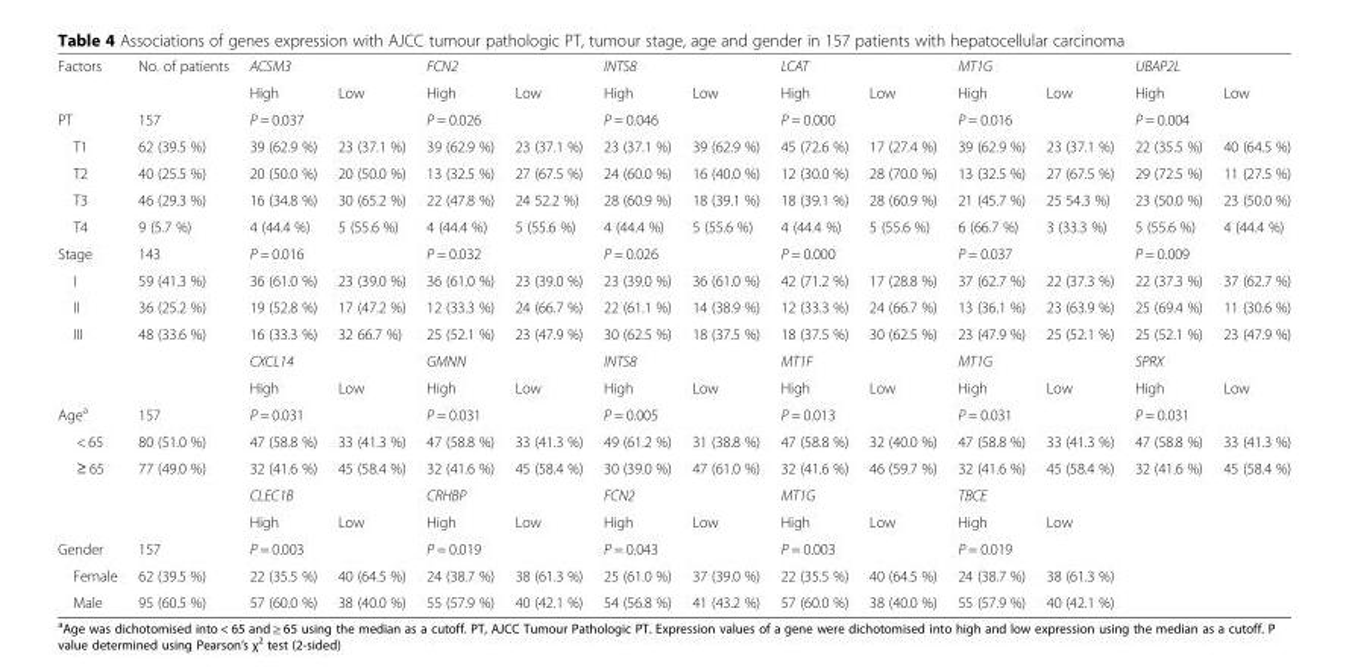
<table><tbody><tr><td rowspan="2">Factors</td><td rowspan="2">No. of patients</td><td colspan="2">ACSM3</td><td colspan="2">FCN2</td><td colspan="2">INTS8</td><td colspan="2">LCAT</td><td colspan="2">MT1G</td><td colspan="2">UBAP2L</td></tr><tr><td>High</td><td>Low</td><td>High</td><td>Low</td><td>High</td><td>Low</td><td>High</td><td>Low</td><td>High</td><td>Low</td><td>High</td><td>Low</td></tr><tr><td>PT</td><td>157</td><td colspan="2">P = 0.037</td><td colspan="2">P = 0.026</td><td colspan="2">P = 0.046</td><td colspan="2">P = 0.000</td><td colspan="2">P = 0.016</td><td colspan="2">P = 0.004</td></tr><tr><td>T1</td><td>62 (39.5 %)</td><td>39 (62.9 %)</td><td>23 (37.1 %)</td><td>39 (62.9 %)</td><td>23 (37.1 %)</td><td>23 (37.1 %)</td><td>39 (62.9 %)</td><td>45 (72.6 %)</td><td>17 (27.4 %)</td><td>39 (62.9 %)</td><td>23 (37.1 %)</td><td>22 (35.5 %)</td><td>40 (64.5 %)</td></tr><tr><td>T2</td><td>40 (25.5 %)</td><td>20 (50.0 %)</td><td>20 (50.0 %)</td><td>13 (32.5 %)</td><td>27 (67.5 %)</td><td>24 (60.0 %)</td><td>16 (40.0 %)</td><td>12 (30.0 %)</td><td>28 (70.0 %)</td><td>13 (32.5 %)</td><td>27 (67.5 %)</td><td>29 (72.5 %)</td><td>11 (27.5 %)</td></tr><tr><td>T3</td><td>46 (29.3 %)</td><td>16 (34.8 %)</td><td>30 (65.2 %)</td><td>22 (47.8 %)</td><td>24 52.2 %)</td><td>28 (60.9 %)</td><td>18 (39.1 %)</td><td>18 (39.1 %)</td><td>28 (60.9 %)</td><td>21 (45.7 %)</td><td>25 54.3 %)</td><td>23 (50.0 %)</td><td>23 (50.0 %)</td></tr><tr><td>T4</td><td>9 (5.7 %)</td><td>4 (44.4 %)</td><td>5 (55.6 %)</td><td>4 (44.4 %)</td><td>5 (55.6 %)</td><td>4 (44.4 %)</td><td>5 (55.6 %)</td><td>4 (44.4 %)</td><td>5 (55.6 %)</td><td>6 (66.7 %)</td><td>3 (33.3 %)</td><td>5 (55.6 %)</td><td>4 (44.4 %)</td></tr><tr><td>Stage</td><td>143</td><td colspan="2">P = 0.016</td><td colspan="2">P = 0.032</td><td colspan="2">P = 0.026</td><td colspan="2">P = 0.000</td><td colspan="2">P = 0.037</td><td colspan="2">P = 0.009</td></tr><tr><td>I</td><td>59 (41.3 %)</td><td>36 (61.0 %)</td><td>23 (39.0 %)</td><td>36 (61.0 %)</td><td>23 (39.0 %)</td><td>23 (39.0 %)</td><td>36 (61.0 %)</td><td>42 (71.2 %)</td><td>17 (28.8 %)</td><td>37 (62.7 %)</td><td>22 (37.3 %)</td><td>22 (37.3 %)</td><td>37 (62.7 %)</td></tr><tr><td>II</td><td>36 (25.2 %)</td><td>19 (52.8 %)</td><td>17 (47.2 %)</td><td>12 (33.3 %)</td><td>24 (66.7 %)</td><td>22 (61.1 %)</td><td>14 (38.9 %)</td><td>12 (33.3 %)</td><td>24 (66.7 %)</td><td>13 (36.1 %)</td><td>23 (63.9 %)</td><td>25 (69.4 %)</td><td>11 (30.6 %)</td></tr><tr><td rowspan="3">III</td><td>48 (33.6 %)</td><td>16 (33.3 %)</td><td>32 66.7 %)</td><td>25 (52.1 %)</td><td>23 (47.9 %)</td><td>30 (62.5 %)</td><td>18 (37.5 %)</td><td>18 (37.5 %)</td><td>30 (62.5 %)</td><td>23 (47.9 %)</td><td>25 (52.1 %)</td><td>25 (52.1 %)</td><td>23 (47.9 %)</td></tr><tr><td></td><td colspan="2">CXCL14</td><td colspan="2">GMNN</td><td colspan="2">INTS8</td><td colspan="2">MT1F</td><td colspan="2">MT1G</td><td colspan="2">SPRX</td></tr><tr><td></td><td>High</td><td>Low</td><td>High</td><td>Low</td><td>High</td><td>Low</td><td>High</td><td>Low</td><td>High</td><td>Low</td><td>High</td><td>Low</td></tr><tr><td>Age<sup>a</sup></td><td>157</td><td colspan="2">P = 0.031</td><td colspan="2">P = 0.031</td><td colspan="2">P = 0.005</td><td colspan="2">P = 0.013</td><td colspan="2">P = 0.031</td><td colspan="2">P = 0.031</td></tr><tr><td>&lt; 65</td><td>80 (51.0 %)</td><td>47 (58.8 %)</td><td>33 (41.3 %)</td><td>47 (58.8 %)</td><td>33 (41.3 %)</td><td>49 (61.2 %)</td><td>31 (38.8 %)</td><td>47 (58.8 %)</td><td>32 (40.0 %)</td><td>47 (58.8 %)</td><td>33 (41.3 %)</td><td>47 (58.8 %)</td><td>33 (41.3 %)</td></tr><tr><td>≥ 65</td><td>77 (49.0 %)</td><td>32 (41.6 %)</td><td>45 (58.4 %)</td><td>32 (41.6 %)</td><td>45 (58.4 %)</td><td>30 (39.0 %)</td><td>47 (61.0 %)</td><td>32 (41.6 %)</td><td>46 (59.7 %)</td><td>32 (41.6 %)</td><td>45 (58.4 %)</td><td>32 (41.6 %)</td><td>45 (58.4 %)</td></tr><tr><td rowspan="2" colspan="2"></td><td colspan="2">CLEC1B</td><td colspan="2">CRHBP</td><td colspan="2">FCN2</td><td colspan="2">MT1G</td><td colspan="2">TBCE</td><td rowspan="4" colspan="2"></td></tr><tr><td>High</td><td>Low</td><td>High</td><td>Low</td><td>High</td><td>Low</td><td>High</td><td>Low</td><td>High</td><td>Low</td></tr><tr><td>Gender</td><td>157</td><td colspan="2">P = 0.003</td><td colspan="2">P = 0.019</td><td colspan="2">P = 0.043</td><td colspan="2">P = 0.003</td><td colspan="2">P = 0.019</td></tr><tr><td>Female</td><td>62 (39.5 %)</td><td>22 (35.5 %)</td><td>40 (64.5 %)</td><td>24 (38.7 %)</td><td>38 (61.3 %)</td><td>25 (61.0 %)</td><td>37 (39.0 %)</td><td>22 (35.5 %)</td><td>40 (64.5 %)</td><td>24 (38.7 %)</td><td>38 (61.3 %)</td></tr><tr><td>Male</td><td>95 (60.5 %)</td><td>57 (60.0 %)</td><td>38 (40.0 %)</td><td>55 (57.9 %)</td><td>40 (42.1 %)</td><td>54 (56.8 %)</td><td>41 (43.2 %)</td><td>57 (60.0 %)</td><td>38 (40.0 %)</td><td>55 (57.9 %)</td><td>40 (42.1 %)</td><td></td><td></td></tr></tbody></table>